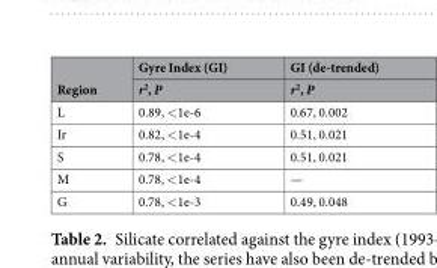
<table><thead><tr><td rowspan="2">Region</td><td rowspan="2">Gyre Index (GI) r<sup>2</sup>, P</td><td rowspan="2">GI (de-trended) r<sup>2</sup>, P</td></tr><tr></tr></thead><tbody><tr><td>L</td><td>0.89, &lt;1e-6</td><td>0.67, 0.002</td></tr><tr><td>Ir</td><td>0.82, &lt;1e-4</td><td>0.51, 0.021</td></tr><tr><td>S</td><td>0.78, &lt;1e-4</td><td>0.51, 0.021</td></tr><tr><td>M</td><td>0.78, &lt;1e-4</td><td>—</td></tr><tr><td>G</td><td>0.78, &lt;1e-3</td><td>0.49, 0.048</td></tr></tbody></table>